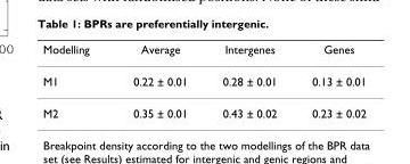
<table><thead><tr><td>Modelling</td><td>Average</td><td>Intergenes</td><td>Genes</td></tr></thead><tbody><tr><td>M1</td><td>0.22 ± 0.01</td><td>0.28 ± 0.01</td><td>0.13 ± 0.01</td></tr><tr><td>M2</td><td>0.35 ± 0.01</td><td>0.43 ± 0.02</td><td>0.23 ± 0.02</td></tr></tbody></table>